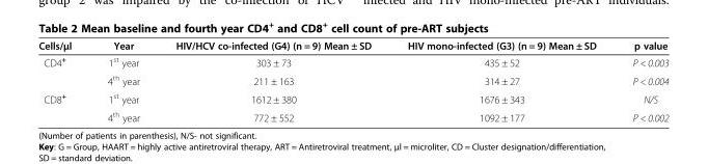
<table><thead><tr><td>Cells/μl</td><td>Year</td><td>HIV/HCV co-infected (G4) (n = 9) Mean ± SD</td><td>HIV mono-infected (G3) (n = 9) Mean ± SD</td><td>p value</td></tr></thead><tbody><tr><td rowspan="2">CD4<sup>+</sup></td><td>1<sup>st</sup> year</td><td>303 ± 73</td><td>435 ± 52</td><td>P &lt; 0.003</td></tr><tr><td>4<sup>th</sup> year</td><td>211 ± 163</td><td>314 ± 27</td><td>P &lt; 0.004</td></tr><tr><td rowspan="2">CD8<sup>+</sup></td><td>1<sup>st</sup> year</td><td>1612 ± 380</td><td>1676 ± 343</td><td>N/S</td></tr><tr><td>4<sup>th</sup> year</td><td>772 ± 552</td><td>1092 ± 177</td><td>P &lt; 0.002</td></tr></tbody></table>